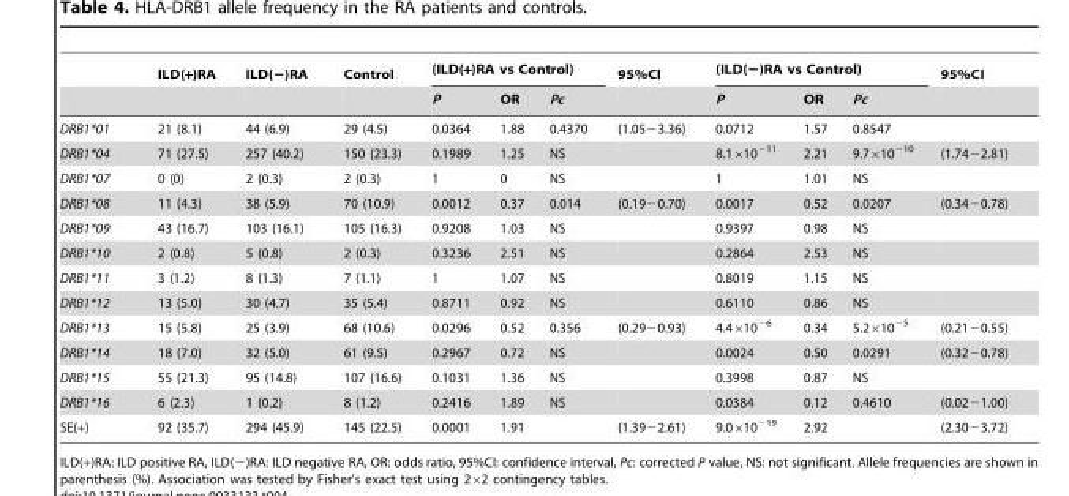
<table><thead><tr><td rowspan="2"></td><td rowspan="2">ILD(+)RA</td><td rowspan="2">ILD(−)RA</td><td rowspan="2">Control</td><td colspan="3">(ILD(+)RA vs Control)</td><td rowspan="2">95%CI</td><td colspan="3">(ILD(−)RA vs Control)</td><td rowspan="2">95%CI</td></tr><tr><td>P</td><td>OR</td><td>Pc</td><td>P</td><td>OR</td><td>Pc</td></tr></thead><tbody><tr><td>DRB1*01</td><td>21 (8.1)</td><td>44 (6.9)</td><td>29 (4.5)</td><td>0.0364</td><td>1.88</td><td>0.4370</td><td>(1.05−3.36)</td><td>0.0712</td><td>1.57</td><td>0.8547</td><td></td></tr><tr><td>DRB1*04</td><td>71 (27.5)</td><td>257 (40.2)</td><td>150 (23.3)</td><td>0.1989</td><td>1.25</td><td>NS</td><td></td><td>8.1×10<sup>−11</sup></td><td>2.21</td><td>9.7×10<sup>−10</sup></td><td>(1.74−2.81)</td></tr><tr><td>DRB1*07</td><td>0 (0)</td><td>2 (0.3)</td><td>2 (0.3)</td><td>1</td><td>0</td><td>NS</td><td></td><td>1</td><td>1.01</td><td>NS</td><td></td></tr><tr><td>DRB1*08</td><td>11 (4.3)</td><td>38 (5.9)</td><td>70 (10.9)</td><td>0.0012</td><td>0.37</td><td>0.014</td><td>(0.19−0.70)</td><td>0.0017</td><td>0.52</td><td>0.0207</td><td>(0.34−0.78)</td></tr><tr><td>DRB1*09</td><td>43 (16.7)</td><td>103 (16.1)</td><td>105 (16.3)</td><td>0.9208</td><td>1.03</td><td>NS</td><td></td><td>0.9397</td><td>0.98</td><td>NS</td><td></td></tr><tr><td>DRB1*10</td><td>2 (0.8)</td><td>5 (0.8)</td><td>2 (0.3)</td><td>0.3236</td><td>2.51</td><td>NS</td><td></td><td>0.2864</td><td>2.53</td><td>NS</td><td></td></tr><tr><td>DRB1*11</td><td>3 (1.2)</td><td>8 (1.3)</td><td>7 (1.1)</td><td>1</td><td>1.07</td><td>NS</td><td></td><td>0.8019</td><td>1.15</td><td>NS</td><td></td></tr><tr><td>DRB1*12</td><td>13 (5.0)</td><td>30 (4.7)</td><td>35 (5.4)</td><td>0.8711</td><td>0.92</td><td>NS</td><td></td><td>0.6110</td><td>0.86</td><td>NS</td><td></td></tr><tr><td>DRB1*13</td><td>15 (5.8)</td><td>25 (3.9)</td><td>68 (10.6)</td><td>0.0296</td><td>0.52</td><td>0.356</td><td>(0.29−0.93)</td><td>4.4×10<sup>−6</sup></td><td>0.34</td><td>5.2×10<sup>−5</sup></td><td>(0.21−0.55)</td></tr><tr><td>DRB1*14</td><td>18 (7.0)</td><td>32 (5.0)</td><td>61 (9.5)</td><td>0.2967</td><td>0.72</td><td>NS</td><td></td><td>0.0024</td><td>0.50</td><td>0.0291</td><td>(0.32−0.78)</td></tr><tr><td>DRB1*15</td><td>55 (21.3)</td><td>95 (14.8)</td><td>107 (16.6)</td><td>0.1031</td><td>1.36</td><td>NS</td><td></td><td>0.3998</td><td>0.87</td><td>NS</td><td></td></tr><tr><td>DRB1*16</td><td>6 (2.3)</td><td>1 (0.2)</td><td>8 (1.2)</td><td>0.2416</td><td>1.89</td><td>NS</td><td></td><td>0.0384</td><td>0.12</td><td>0.4610</td><td>(0.02−1.00)</td></tr><tr><td>SE(+)</td><td>92 (35.7)</td><td>294 (45.9)</td><td>145 (22.5)</td><td>0.0001</td><td>1.91</td><td></td><td>(1.39−2.61)</td><td>9.0×10<sup>−19</sup></td><td>2.92</td><td></td><td>(2.30−3.72)</td></tr></tbody></table>